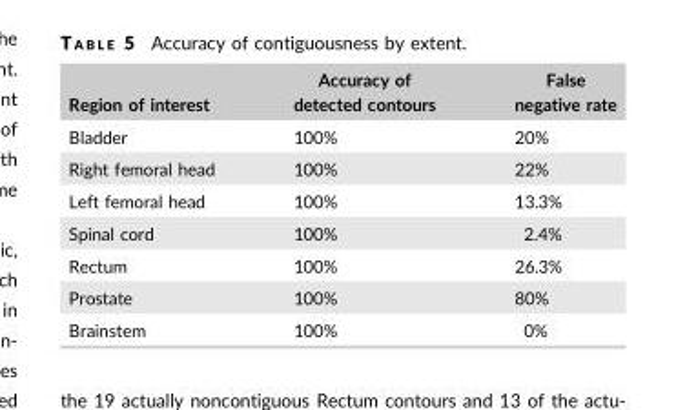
<table><thead><tr><td>Region of interest</td><td>Accuracy of detected contours</td><td>False negative rate</td></tr></thead><tbody><tr><td>Bladder</td><td>100%</td><td>20%</td></tr><tr><td>Right femoral head</td><td>100%</td><td>22%</td></tr><tr><td>Left femoral head</td><td>100%</td><td>13.3%</td></tr><tr><td>Spinal cord</td><td>100%</td><td>2.4%</td></tr><tr><td>Rectum</td><td>100%</td><td>26.3%</td></tr><tr><td>Prostate</td><td>100%</td><td>80%</td></tr><tr><td>Brainstem</td><td>100%</td><td>0%</td></tr></tbody></table>